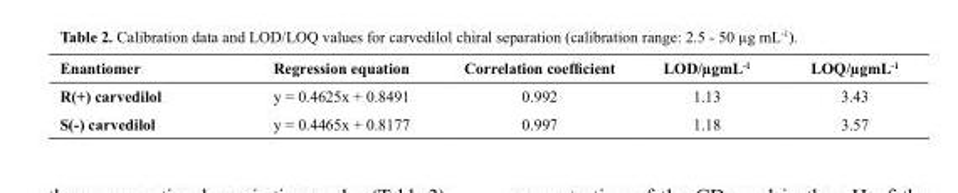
<table><thead><tr><td>Enantiomer</td><td>Regression equation</td><td>Correlation coefficient</td><td>LOD/µgmL<sup>-1</sup></td><td>LOQ/µgmL<sup>-1</sup></td></tr></thead><tbody><tr><td>R(+) carvedilol</td><td>y = 0.4625x + 0.8491</td><td>0.992</td><td>1.13</td><td>3.43</td></tr><tr><td>S(-) carvedilol</td><td>y = 0.4465x + 0.8177</td><td>0.997</td><td>1.18</td><td>3.57</td></tr></tbody></table>